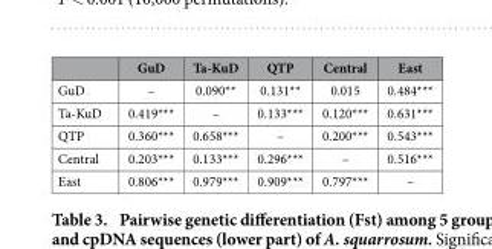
<table><thead><tr><td></td><td>GuD</td><td>Ta-KuD</td><td>QTP</td><td>Central</td><td>East</td></tr></thead><tbody><tr><td>GuD</td><td>–</td><td>0.090**</td><td>0.131**</td><td>0.015</td><td>0.484***</td></tr><tr><td>Ta-KuD</td><td>0.419***</td><td>–</td><td>0.133***</td><td>0.120***</td><td>0.631***</td></tr><tr><td>QTP</td><td>0.360***</td><td>0.658***</td><td>–</td><td>0.200***</td><td>0.543***</td></tr><tr><td>Central</td><td>0.203***</td><td>0.133***</td><td>0.296***</td><td>–</td><td>0.516***</td></tr><tr><td>East</td><td>0.806***</td><td>0.979***</td><td>0.909***</td><td>0.797***</td><td>–</td></tr></tbody></table>